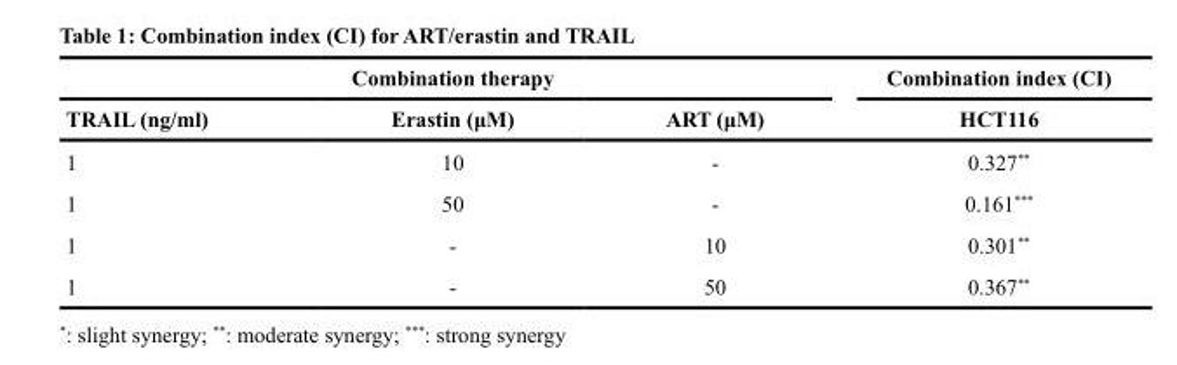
<table><thead><tr><td colspan="3">Combination therapy</td><td rowspan="2">Combination index (CI) HCT116</td></tr><tr><td>TRAIL (ng/ml)</td><td>Erastin (μM)</td><td>ART (μM)</td></tr></thead><tbody><tr><td>1</td><td>10</td><td>-</td><td>0.327**</td></tr><tr><td>1</td><td>50</td><td>-</td><td>0.161***</td></tr><tr><td>1</td><td>-</td><td>10</td><td>0.301**</td></tr><tr><td>1</td><td>-</td><td>50</td><td>0.367**</td></tr></tbody></table>